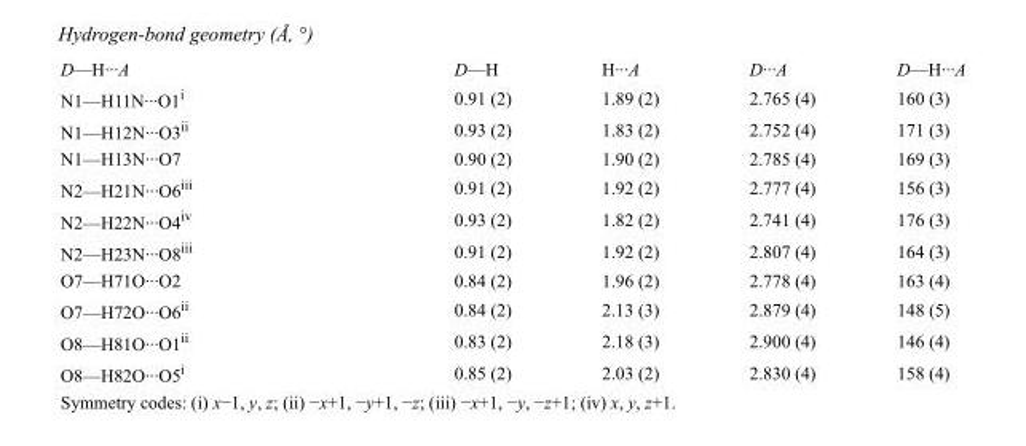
<table><tbody><tr><td>D—H···A</td><td>D—H</td><td>H···A</td><td>D···A</td><td>D—H···A</td></tr><tr><td>N1—H11N···O1<sup>i</sup></td><td>0.91 (2)</td><td>1.89 (2)</td><td>2.765 (4)</td><td>160 (3)</td></tr><tr><td>N1—H12N···O3<sup>ii</sup></td><td>0.93 (2)</td><td>1.83 (2)</td><td>2.752 (4)</td><td>171 (3)</td></tr><tr><td>N1—H13N···O7</td><td>0.90 (2)</td><td>1.90 (2)</td><td>2.785 (4)</td><td>169 (3)</td></tr><tr><td>N2—H21N···O6<sup>iii</sup></td><td>0.91 (2)</td><td>1.92 (2)</td><td>2.777 (4)</td><td>156 (3)</td></tr><tr><td>N2—H22N···O4<sup>iv</sup></td><td>0.93 (2)</td><td>1.82 (2)</td><td>2.741 (4)</td><td>176 (3)</td></tr><tr><td>N2—H23N···O8<sup>iii</sup></td><td>0.91 (2)</td><td>1.92 (2)</td><td>2.807 (4)</td><td>164 (3)</td></tr><tr><td>O7—H71O···O2</td><td>0.84 (2)</td><td>1.96 (2)</td><td>2.778 (4)</td><td>163 (4)</td></tr><tr><td>O7—H72O···O6<sup>ii</sup></td><td>0.84 (2)</td><td>2.13 (3)</td><td>2.879 (4)</td><td>148 (5)</td></tr><tr><td>O8—H81O···O1<sup>ii</sup></td><td>0.83 (2)</td><td>2.18 (3)</td><td>2.900 (4)</td><td>146 (4)</td></tr><tr><td>O8—H82O···O5<sup>i</sup></td><td>0.85 (2)</td><td>2.03 (2)</td><td>2.830 (4)</td><td>158 (4)</td></tr></tbody></table>